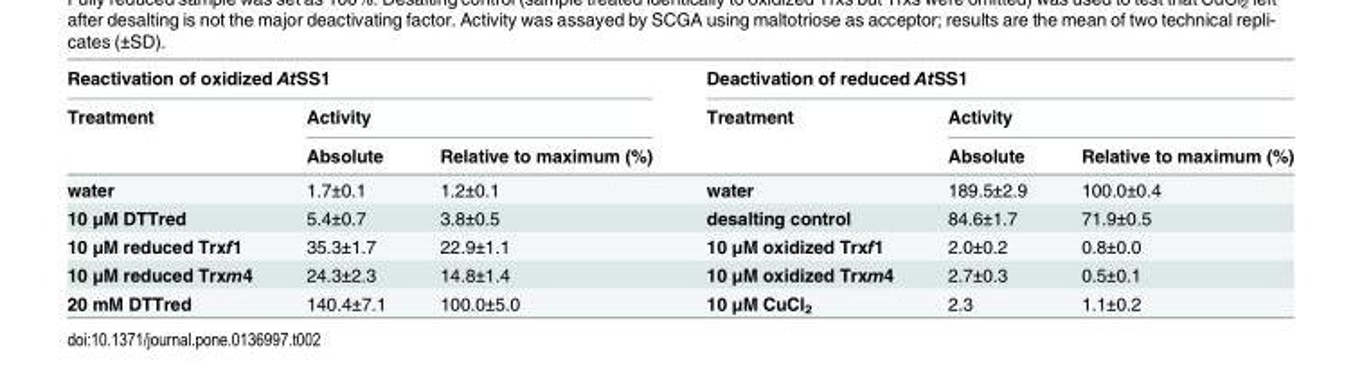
<table><thead><tr><td colspan="3">Reactivation of oxidized AtSS1</td><td colspan="3">Deactivation of reduced AtSS1</td></tr><tr><td rowspan="2">Treatment</td><td colspan="2">Activity</td><td rowspan="2">Treatment</td><td colspan="2">Activity</td></tr><tr><td>Absolute</td><td>Relative to maximum (%)</td><td>Absolute</td><td>Relative to maximum (%)</td></tr></thead><tbody><tr><td>water</td><td>1.7±0.1</td><td>1.2±0.1</td><td>water</td><td>189.5±2.9</td><td>100.0±0.4</td></tr><tr><td>10 μM DTTred</td><td>5.4±0.7</td><td>3.8±0.5</td><td>desalting control</td><td>84.6±1.7</td><td>71.9±0.5</td></tr><tr><td>10 μM reduced Trxf1</td><td>35.3±1.7</td><td>22.9±1.1</td><td>10 μM oxidized Trxf1</td><td>2.0±0.2</td><td>0.8±0.0</td></tr><tr><td>10 μM reduced Trxm4</td><td>24.3±2.3</td><td>14.8±1.4</td><td>10 μM oxidized Trxm4</td><td>2.7±0.3</td><td>0.5±0.1</td></tr><tr><td>20 mM DTTred</td><td>140.4±7.1</td><td>100.0±5.0</td><td>10 μM CuCl<sub>2</sub></td><td>2.3</td><td>1.1±0.2</td></tr></tbody></table>